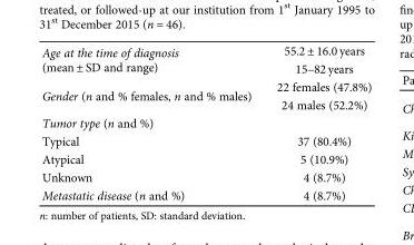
<table><tbody><tr><td rowspan="2">Age at the time of diagnosis (mean ± SD and range)</td><td>55.2 ± 16.0 years</td></tr><tr><td>15–82 years</td></tr><tr><td rowspan="2">Gender (n and % females, n and % males)</td><td>22 females (47.8%)</td></tr><tr><td>24 males (52.2%)</td></tr><tr><td colspan="2">Tumor type (n and %)</td></tr><tr><td>Typical</td><td>37 (80.4%)</td></tr><tr><td>Atypical</td><td>5 (10.9%)</td></tr><tr><td>Unknown</td><td>4 (8.7%)</td></tr><tr><td>Metastatic disease (n and %)</td><td>4 (8.7%)</td></tr></tbody></table>